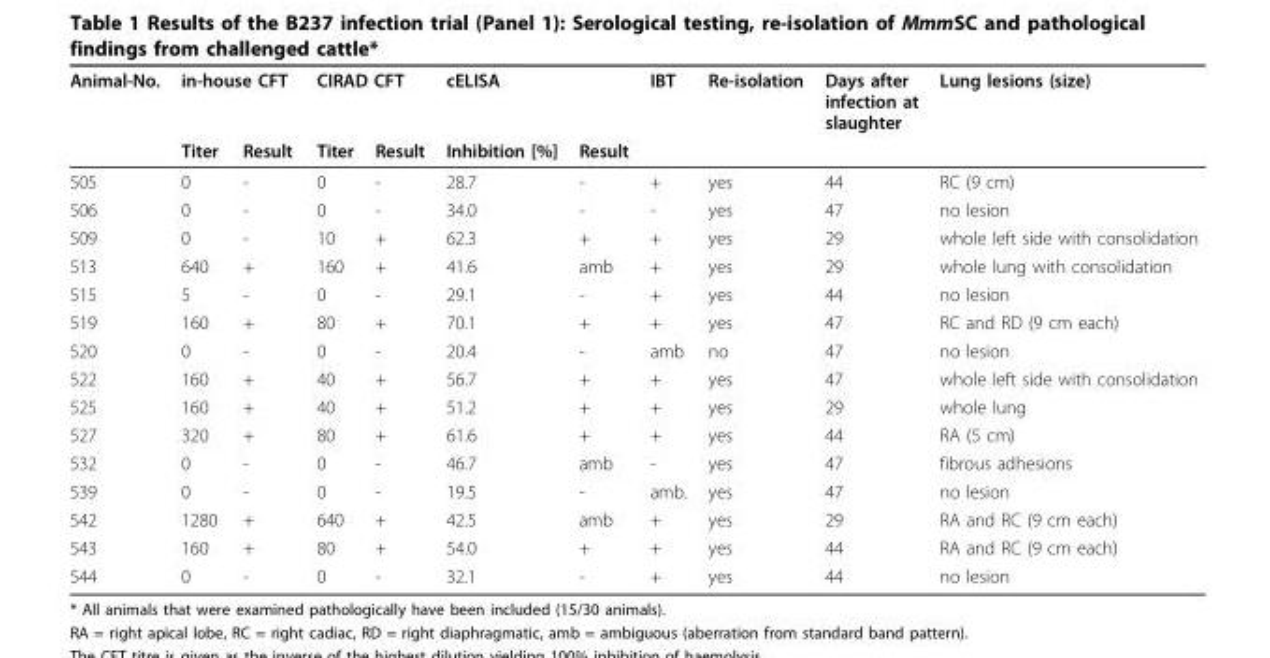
<table><thead><tr><td rowspan="2">Animal-No.</td><td colspan="2">in-house CFT</td><td colspan="2">CIRAD CFT</td><td colspan="2">cELISA</td><td rowspan="2">IBT</td><td rowspan="2">Re-isolation</td><td rowspan="2">Days after infection at slaughter</td><td rowspan="2">Lung lesions (size)</td></tr><tr><td>Titer</td><td>Result</td><td>Titer</td><td>Result</td><td>Inhibition [%]</td><td>Result</td></tr></thead><tbody><tr><td>505</td><td>0</td><td>-</td><td>0</td><td>-</td><td>28.7</td><td>-</td><td>+</td><td>yes</td><td>44</td><td>RC (9 cm)</td></tr><tr><td>506</td><td>0</td><td>-</td><td>0</td><td>-</td><td>34.0</td><td>-</td><td>-</td><td>yes</td><td>47</td><td>no lesion</td></tr><tr><td>509</td><td>0</td><td>-</td><td>10</td><td>+</td><td>62.3</td><td>+</td><td>+</td><td>yes</td><td>29</td><td>whole left side with consolidation</td></tr><tr><td>513</td><td>640</td><td>+</td><td>160</td><td>+</td><td>41.6</td><td>amb</td><td>+</td><td>yes</td><td>29</td><td>whole lung with consolidation</td></tr><tr><td>515</td><td>5</td><td>-</td><td>0</td><td>-</td><td>29.1</td><td>-</td><td>+</td><td>yes</td><td>44</td><td>no lesion</td></tr><tr><td>519</td><td>160</td><td>+</td><td>80</td><td>+</td><td>70.1</td><td>+</td><td>+</td><td>yes</td><td>47</td><td>RC and RD (9 cm each)</td></tr><tr><td>520</td><td>0</td><td>-</td><td>0</td><td>-</td><td>20.4</td><td>-</td><td>amb</td><td>no</td><td>47</td><td>no lesion</td></tr><tr><td>522</td><td>160</td><td>+</td><td>40</td><td>+</td><td>56.7</td><td>+</td><td>+</td><td>yes</td><td>47</td><td>whole left side with consolidation</td></tr><tr><td>525</td><td>160</td><td>+</td><td>40</td><td>+</td><td>51.2</td><td>+</td><td>+</td><td>yes</td><td>29</td><td>whole lung</td></tr><tr><td>527</td><td>320</td><td>+</td><td>80</td><td>+</td><td>61.6</td><td>+</td><td>+</td><td>yes</td><td>44</td><td>RA (5 cm)</td></tr><tr><td>532</td><td>0</td><td>-</td><td>0</td><td>-</td><td>46.7</td><td>amb</td><td>-</td><td>yes</td><td>47</td><td>fibrous adhesions</td></tr><tr><td>539</td><td>0</td><td>-</td><td>0</td><td>-</td><td>19.5</td><td>-</td><td>amb.</td><td>yes</td><td>47</td><td>no lesion</td></tr><tr><td>542</td><td>1280</td><td>+</td><td>640</td><td>+</td><td>42.5</td><td>amb</td><td>+</td><td>yes</td><td>29</td><td>RA and RC (9 cm each)</td></tr><tr><td>543</td><td>160</td><td>+</td><td>80</td><td>+</td><td>54.0</td><td>+</td><td>+</td><td>yes</td><td>44</td><td>RA and RC (9 cm each)</td></tr><tr><td>544</td><td>0</td><td>-</td><td>0</td><td>-</td><td>32.1</td><td>-</td><td>+</td><td>yes</td><td>44</td><td>no lesion</td></tr></tbody></table>